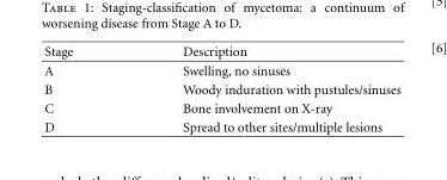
<table><thead><tr><td>Stage</td><td>Description</td></tr></thead><tbody><tr><td>A</td><td>Swelling, no sinuses</td></tr><tr><td>B</td><td>Woody induration with pustules/sinuses</td></tr><tr><td>C</td><td>Bone involvement on X-ray</td></tr><tr><td>D</td><td>Spread to other sites/multiple lesions</td></tr></tbody></table>